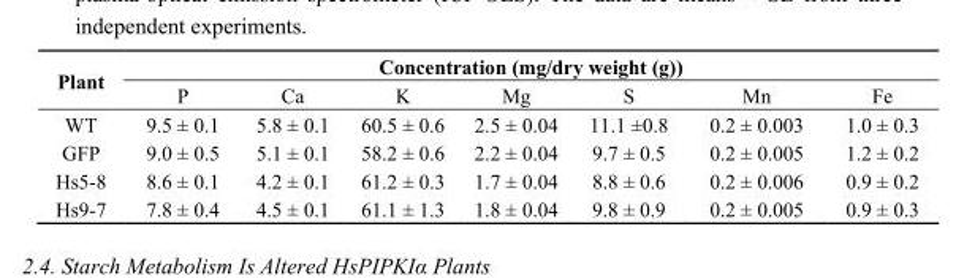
<table><thead><tr><td rowspan="2">Plant</td><td colspan="7">Concentration (mg/dry weight (g))</td></tr><tr><td>P</td><td>Ca</td><td>K</td><td>Mg</td><td>S</td><td>Mn</td><td>Fe</td></tr></thead><tbody><tr><td>WT</td><td>9.5 ± 0.1</td><td>5.8 ± 0.1</td><td>60.5 ± 0.6</td><td>2.5 ± 0.04</td><td>11.1 ±0.8</td><td>0.2 ± 0.003</td><td>1.0 ± 0.3</td></tr><tr><td>GFP</td><td>9.0 ± 0.5</td><td>5.1 ± 0.1</td><td>58.2 ± 0.6</td><td>2.2 ± 0.04</td><td>9.7 ± 0.5</td><td>0.2 ± 0.005</td><td>1.2 ± 0.2</td></tr><tr><td>Hs5-8</td><td>8.6 ± 0.1</td><td>4.2 ± 0.1</td><td>61.2 ± 0.3</td><td>1.7 ± 0.04</td><td>8.8 ± 0.6</td><td>0.2 ± 0.006</td><td>0.9 ± 0.2</td></tr><tr><td>Hs9-7</td><td>7.8 ± 0.4</td><td>4.5 ± 0.1</td><td>61.1 ± 1.3</td><td>1.8 ± 0.04</td><td>9.8 ± 0.9</td><td>0.2 ± 0.005</td><td>0.9 ± 0.3</td></tr></tbody></table>